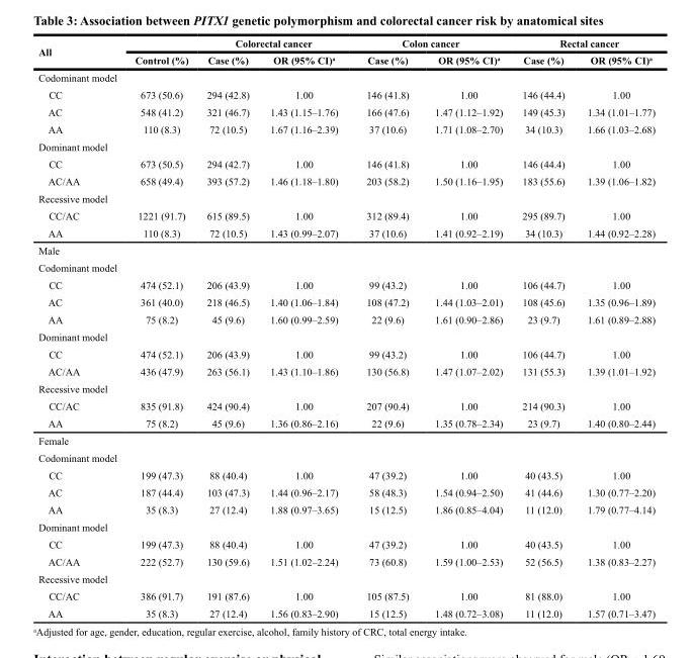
<table><thead><tr><td rowspan="2">All</td><td rowspan="2">Control (%)</td><td colspan="2">Colorectal cancer</td><td colspan="2">Colon cancer</td><td colspan="2">Rectal cancer</td></tr><tr><td>Case (%)</td><td>OR (95% CI)<sup>a</sup></td><td>Case (%)</td><td>OR (95% CI)<sup>a</sup></td><td>Case (%)</td><td>OR (95% CI)<sup>a</sup></td></tr></thead><tbody><tr><td colspan="8">Codominant model</td></tr><tr><td>CC</td><td>673 (50.6)</td><td>294 (42.8)</td><td>1.00</td><td>146 (41.8)</td><td>1.00</td><td>146 (44.4)</td><td>1.00</td></tr><tr><td>AC</td><td>548 (41.2)</td><td>321 (46.7)</td><td>1.43 (1.15–1.76)</td><td>166 (47.6)</td><td>1.47 (1.12–1.92)</td><td>149 (45.3)</td><td>1.34 (1.01–1.77)</td></tr><tr><td>AA</td><td>110 (8.3)</td><td>72 (10.5)</td><td>1.67 (1.16–2.39)</td><td>37 (10.6)</td><td>1.71 (1.08–2.70)</td><td>34 (10.3)</td><td>1.66 (1.03–2.68)</td></tr><tr><td colspan="8">Dominant model</td></tr><tr><td>CC</td><td>673 (50.5)</td><td>294 (42.7)</td><td>1.00</td><td>146 (41.8)</td><td>1.00</td><td>146 (44.4)</td><td>1.00</td></tr><tr><td>AC/AA</td><td>658 (49.4)</td><td>393 (57.2)</td><td>1.46 (1.18–1.80)</td><td>203 (58.2)</td><td>1.50 (1.16–1.95)</td><td>183 (55.6)</td><td>1.39 (1.06–1.82)</td></tr><tr><td colspan="8">Recessive model</td></tr><tr><td>CC/AC</td><td>1221 (91.7)</td><td>615 (89.5)</td><td>1.00</td><td>312 (89.4)</td><td>1.00</td><td>295 (89.7)</td><td>1.00</td></tr><tr><td>AA</td><td>110 (8.3)</td><td>72 (10.5)</td><td>1.43 (0.99–2.07)</td><td>37 (10.6)</td><td>1.41 (0.92–2.19)</td><td>34 (10.3)</td><td>1.44 (0.92–2.28)</td></tr><tr><td colspan="8">Male</td></tr><tr><td colspan="8">Codominant model</td></tr><tr><td>CC</td><td>474 (52.1)</td><td>206 (43.9)</td><td>1.00</td><td>99 (43.2)</td><td>1.00</td><td>106 (44.7)</td><td>1.00</td></tr><tr><td>AC</td><td>361 (40.0)</td><td>218 (46.5)</td><td>1.40 (1.06–1.84)</td><td>108 (47.2)</td><td>1.44 (1.03–2.01)</td><td>108 (45.6)</td><td>1.35 (0.96–1.89)</td></tr><tr><td>AA</td><td>75 (8.2)</td><td>45 (9.6)</td><td>1.60 (0.99–2.59)</td><td>22 (9.6)</td><td>1.61 (0.90–2.86)</td><td>23 (9.7)</td><td>1.61 (0.89–2.88)</td></tr><tr><td colspan="8">Dominant model</td></tr><tr><td>CC</td><td>474 (52.1)</td><td>206 (43.9)</td><td>1.00</td><td>99 (43.2)</td><td>1.00</td><td>106 (44.7)</td><td>1.00</td></tr><tr><td>AC/AA</td><td>436 (47.9)</td><td>263 (56.1)</td><td>1.43 (1.10–1.86)</td><td>130 (56.8)</td><td>1.47 (1.07–2.02)</td><td>131 (55.3)</td><td>1.39 (1.01–1.92)</td></tr><tr><td colspan="8">Recessive model</td></tr><tr><td>CC/AC</td><td>835 (91.8)</td><td>424 (90.4)</td><td>1.00</td><td>207 (90.4)</td><td>1.00</td><td>214 (90.3)</td><td>1.00</td></tr><tr><td>AA</td><td>75 (8.2)</td><td>45 (9.6)</td><td>1.36 (0.86–2.16)</td><td>22 (9.6)</td><td>1.35 (0.78–2.34)</td><td>23 (9.7)</td><td>1.40 (0.80–2.44)</td></tr><tr><td colspan="8">Female</td></tr><tr><td colspan="8">Codominant model</td></tr><tr><td>CC</td><td>199 (47.3)</td><td>88 (40.4)</td><td>1.00</td><td>47 (39.2)</td><td>1.00</td><td>40 (43.5)</td><td>1.00</td></tr><tr><td>AC</td><td>187 (44.4)</td><td>103 (47.3)</td><td>1.44 (0.96–2.17)</td><td>58 (48.3)</td><td>1.54 (0.94–2.50)</td><td>41 (44.6)</td><td>1.30 (0.77–2.20)</td></tr><tr><td>AA</td><td>35 (8.3)</td><td>27 (12.4)</td><td>1.88 (0.97–3.65)</td><td>15 (12.5)</td><td>1.86 (0.85–4.04)</td><td>11 (12.0)</td><td>1.79 (0.77–4.14)</td></tr><tr><td colspan="8">Dominant model</td></tr><tr><td>CC</td><td>199 (47.3)</td><td>88 (40.4)</td><td>1.00</td><td>47 (39.2)</td><td>1.00</td><td>40 (43.5)</td><td>1.00</td></tr><tr><td>AC/AA</td><td>222 (52.7)</td><td>130 (59.6)</td><td>1.51 (1.02–2.24)</td><td>73 (60.8)</td><td>1.59 (1.00–2.53)</td><td>52 (56.5)</td><td>1.38 (0.83–2.27)</td></tr><tr><td colspan="8">Recessive model</td></tr><tr><td>CC/AC</td><td>386 (91.7)</td><td>191 (87.6)</td><td>1.00</td><td>105 (87.5)</td><td>1.00</td><td>81 (88.0)</td><td>1.00</td></tr><tr><td>AA</td><td>35 (8.3)</td><td>27 (12.4)</td><td>1.56 (0.83–2.90)</td><td>15 (12.5)</td><td>1.48 (0.72–3.08)</td><td>11 (12.0)</td><td>1.57 (0.71–3.47)</td></tr></tbody></table>